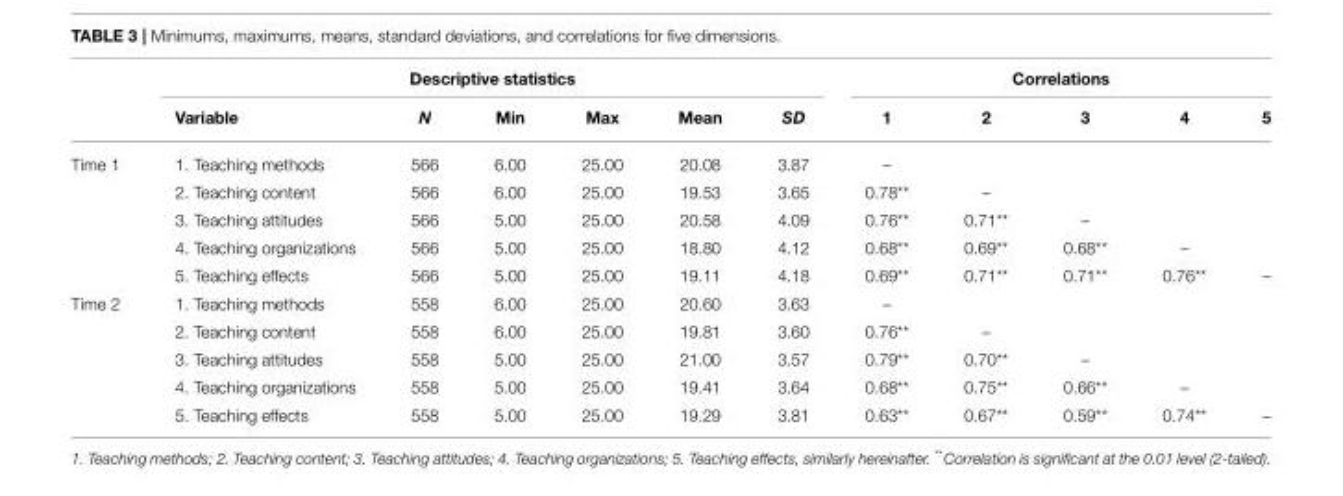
<table><thead><tr><td rowspan="2"></td><td colspan="6">Descriptive statistics</td><td colspan="5">Correlations</td></tr><tr><td>Variable</td><td>N</td><td>Min</td><td>Max</td><td>Mean</td><td>SD</td><td>1</td><td>2</td><td>3</td><td>4</td><td>5</td></tr></thead><tbody><tr><td rowspan="5">Time 1</td><td>1. Teaching methods</td><td>566</td><td>6.00</td><td>25.00</td><td>20.08</td><td>3.87</td><td>–</td><td></td><td></td><td></td><td></td></tr><tr><td>2. Teaching content</td><td>566</td><td>6.00</td><td>25.00</td><td>19.53</td><td>3.65</td><td>0.78**</td><td>–</td><td></td><td></td><td></td></tr><tr><td>3. Teaching attitudes</td><td>566</td><td>5.00</td><td>25.00</td><td>20.58</td><td>4.09</td><td>0.76**</td><td>0.71**</td><td>–</td><td></td><td></td></tr><tr><td>4. Teaching organizations</td><td>566</td><td>5.00</td><td>25.00</td><td>18.80</td><td>4.12</td><td>0.68**</td><td>0.69**</td><td>0.68**</td><td>–</td><td></td></tr><tr><td>5. Teaching effects</td><td>566</td><td>5.00</td><td>25.00</td><td>19.11</td><td>4.18</td><td>0.69**</td><td>0.71**</td><td>0.71**</td><td>0.76**</td><td>–</td></tr><tr><td rowspan="5">Time 2</td><td>1. Teaching methods</td><td>558</td><td>6.00</td><td>25.00</td><td>20.60</td><td>3.63</td><td>–</td><td></td><td></td><td></td><td></td></tr><tr><td>2. Teaching content</td><td>558</td><td>6.00</td><td>25.00</td><td>19.81</td><td>3.60</td><td>0.76**</td><td>–</td><td></td><td></td><td></td></tr><tr><td>3. Teaching attitudes</td><td>558</td><td>5.00</td><td>25.00</td><td>21.00</td><td>3.57</td><td>0.79**</td><td>0.70**</td><td>–</td><td></td><td></td></tr><tr><td>4. Teaching organizations</td><td>558</td><td>5.00</td><td>25.00</td><td>19.41</td><td>3.64</td><td>0.68**</td><td>0.75**</td><td>0.66**</td><td>–</td><td></td></tr><tr><td>5. Teaching effects</td><td>558</td><td>5.00</td><td>25.00</td><td>19.29</td><td>3.81</td><td>0.63**</td><td>0.67**</td><td>0.59**</td><td>0.74**</td><td>–</td></tr></tbody></table>